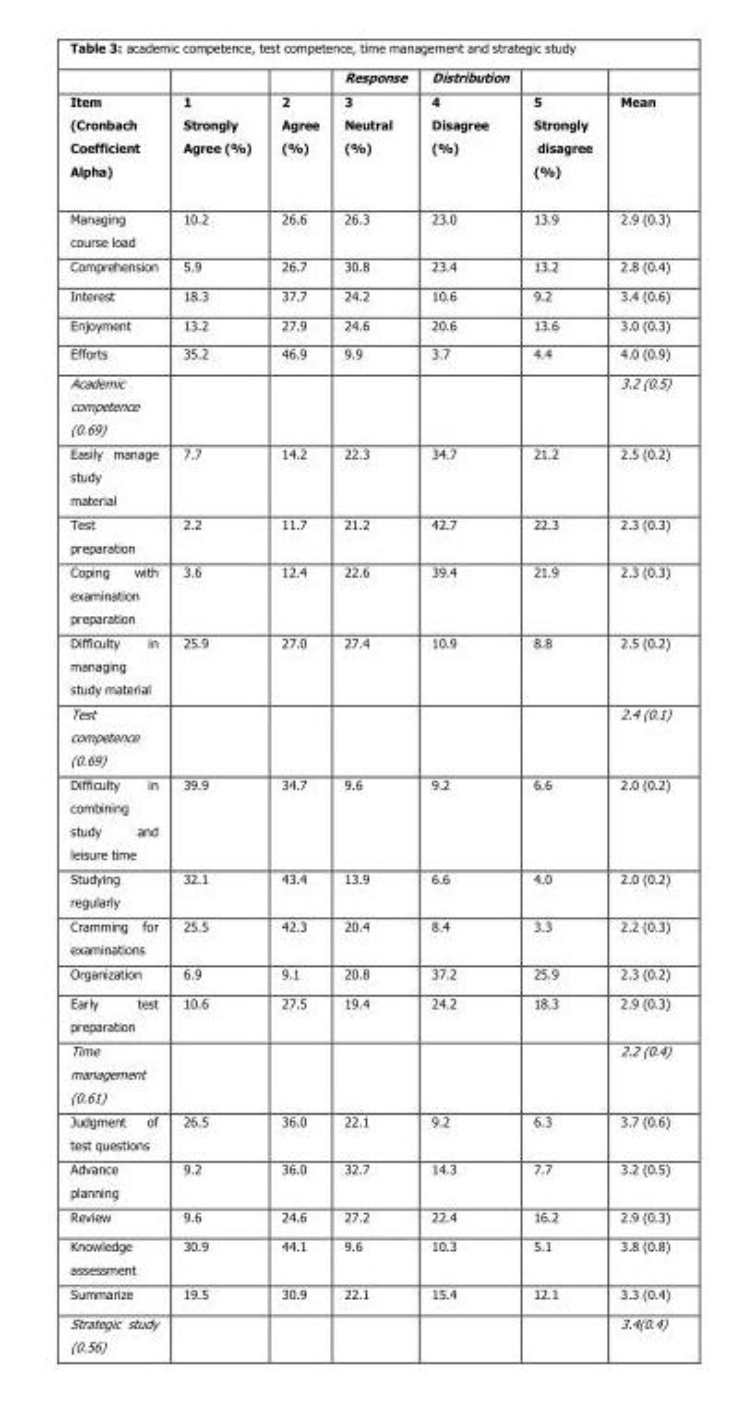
<table><thead><tr><td rowspan="2">Item (Cronbach Coefficient Alpha)</td><td rowspan="2">1 Strongly Agree (%)</td><td rowspan="2">2 Agree (%)</td><td rowspan="2">Response 3 Neutral (%)</td><td rowspan="2">Distribution 4 Disagree (%)</td><td rowspan="2">5 Strongly disagree (%)</td><td rowspan="2">Mean</td></tr><tr></tr></thead><tbody><tr><td>Managing course load</td><td>10.2</td><td>26.6</td><td>26.3</td><td>23.0</td><td>13.9</td><td>2.9 (0.3)</td></tr><tr><td>Comprehension</td><td>5.9</td><td>26.7</td><td>30.8</td><td>23.4</td><td>13.2</td><td>2.8 (0.4)</td></tr><tr><td>Interest</td><td>18.3</td><td>37.7</td><td>24.2</td><td>10.6</td><td>9.2</td><td>3.4 (0.6)</td></tr><tr><td>Enjoyment</td><td>13.2</td><td>27.9</td><td>24.6</td><td>20.6</td><td>13.6</td><td>3.0 (0.3)</td></tr><tr><td>Efforts</td><td>35.2</td><td>46.9</td><td>9.9</td><td>3.7</td><td>4.4</td><td>4.0 (0.9)</td></tr><tr><td>Academic competence (0.69)</td><td></td><td></td><td></td><td></td><td></td><td>3.2 (0.5)</td></tr><tr><td>Easily manage study material</td><td>7.7</td><td>14.2</td><td>22.3</td><td>34.7</td><td>21.2</td><td>2.5 (0.2)</td></tr><tr><td>Test preparation</td><td>2.2</td><td>11.7</td><td>21.2</td><td>42.7</td><td>22.3</td><td>2.3 (0.3)</td></tr><tr><td>Coping with examination preparation</td><td>3.6</td><td>12.4</td><td>22.6</td><td>39.4</td><td>21.9</td><td>2.3 (0.3)</td></tr><tr><td>Difficulty in managing study material</td><td>25.9</td><td>27.0</td><td>27.4</td><td>10.9</td><td>8.8</td><td>2.5 (0.2)</td></tr><tr><td>Test competence (0.69)</td><td></td><td></td><td></td><td></td><td></td><td>2.4 (0.1)</td></tr><tr><td>Difficulty in combining study and leisure time</td><td>39.9</td><td>34.7</td><td>9.6</td><td>9.2</td><td>6.6</td><td>2.0 (0.2)</td></tr><tr><td>Studying regularly</td><td>32.1</td><td>43.4</td><td>13.9</td><td>6.6</td><td>4.0</td><td>2.0 (0.2)</td></tr><tr><td>Cramming for examinations</td><td>25.5</td><td>42.3</td><td>20.4</td><td>8.4</td><td>3.3</td><td>2.2 (0.3)</td></tr><tr><td>Organization</td><td>6.9</td><td>9.1</td><td>20.8</td><td>37.2</td><td>25.9</td><td>2.3 (0.2)</td></tr><tr><td>Early test preparation</td><td>10.6</td><td>27.5</td><td>19.4</td><td>24.2</td><td>18.3</td><td>2.9 (0.3)</td></tr><tr><td>Time management (0.61)</td><td></td><td></td><td></td><td></td><td></td><td>2.2 (0.4)</td></tr><tr><td>Judgment of test questions</td><td>26.5</td><td>36.0</td><td>22.1</td><td>9.2</td><td>6.3</td><td>3.7 (0.6)</td></tr><tr><td>Advance planning</td><td>9.2</td><td>36.0</td><td>32.7</td><td>14.3</td><td>7.7</td><td>3.2 (0.5)</td></tr><tr><td>Review</td><td>9.6</td><td>24.6</td><td>27.2</td><td>22.4</td><td>16.2</td><td>2.9 (0.3)</td></tr><tr><td>Knowledge assessment</td><td>30.9</td><td>44.1</td><td>9.6</td><td>10.3</td><td>5.1</td><td>3.8 (0.8)</td></tr><tr><td>Summarize</td><td>19.5</td><td>30.9</td><td>22.1</td><td>15.4</td><td>12.1</td><td>3.3 (0.4)</td></tr><tr><td>Strategic study (0.56)</td><td></td><td></td><td></td><td></td><td></td><td>3.4(0.4)</td></tr></tbody></table>